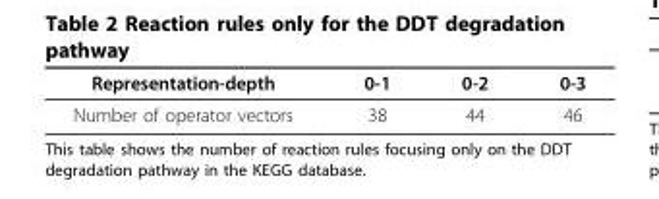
<table><thead><tr><td>Representation-depth</td><td>0-1</td><td>0-2</td><td>0-3</td></tr></thead><tbody><tr><td>Number of operator vectors</td><td>38</td><td>44</td><td>46</td></tr></tbody></table>